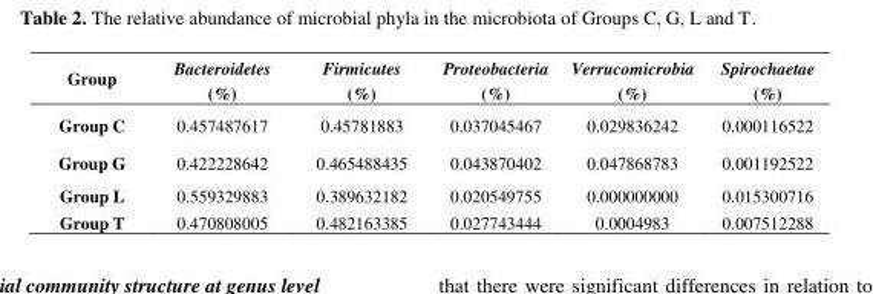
<table><thead><tr><td rowspan="2">Group</td><td rowspan="2">Bacteroidetes (%)</td><td rowspan="2">Firmicutes (%)</td><td rowspan="2">Proteobacteria (%)</td><td rowspan="2">Verrucomicrobia (%)</td><td rowspan="2">Spirochaetae (%)</td></tr><tr></tr></thead><tbody><tr><td>Group C</td><td>0.457487617</td><td>0.45781883</td><td>0.037045467</td><td>0.029836242</td><td>0.000116522</td></tr><tr><td>Group G</td><td>0.422228642</td><td>0.465488435</td><td>0.043870402</td><td>0.047868783</td><td>0.001192522</td></tr><tr><td>Group L</td><td>0.559329883</td><td>0.389632182</td><td>0.020549755</td><td>0.000000000</td><td>0.015300716</td></tr><tr><td>Group T</td><td>0.470808005</td><td>0.482163385</td><td>0.027743444</td><td>0.0004983</td><td>0.007512288</td></tr></tbody></table>